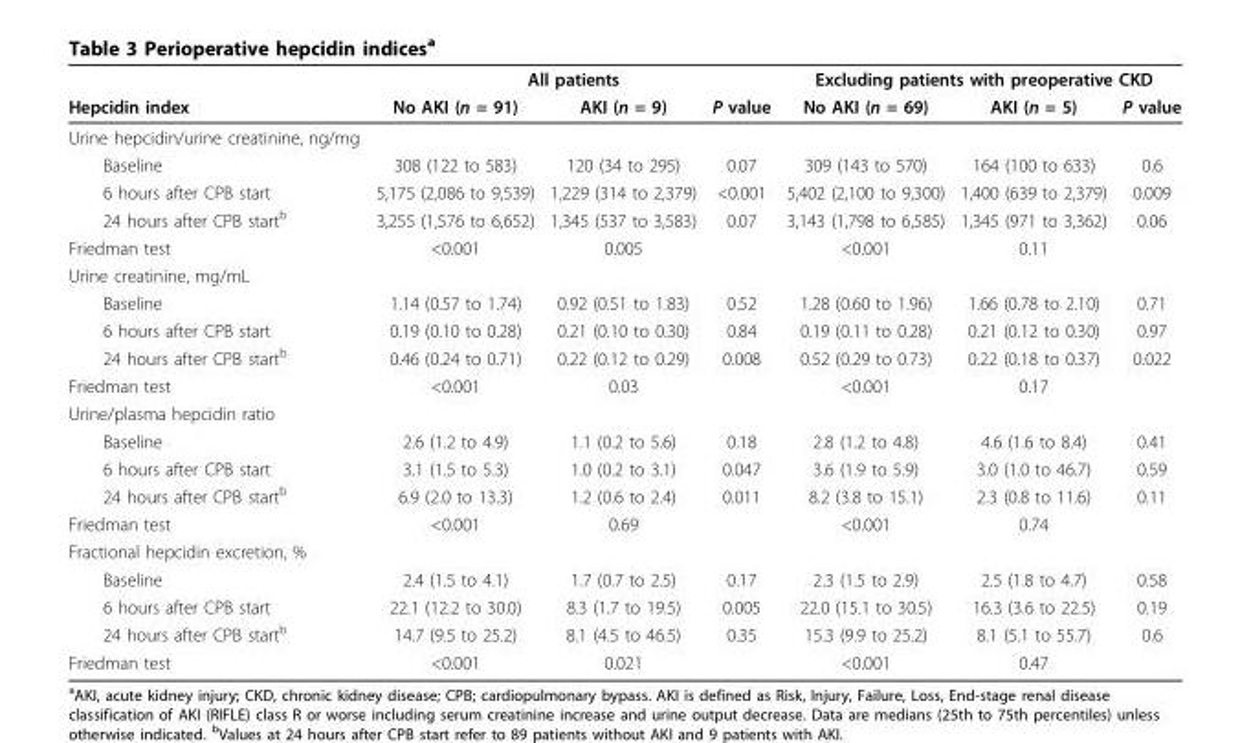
<table><thead><tr><td rowspan="2">Hepcidin index</td><td colspan="3">All patients</td><td colspan="3">Excluding patients with preoperative CKD</td></tr><tr><td>No AKI (n = 91)</td><td>AKI (n = 9)</td><td>P value</td><td>No AKI (n = 69)</td><td>AKI (n = 5)</td><td>P value</td></tr></thead><tbody><tr><td colspan="7">Urine hepcidin/urine creatinine, ng/mg</td></tr><tr><td>Baseline</td><td>308 (122 to 583)</td><td>120 (34 to 295)</td><td>0.07</td><td>309 (143 to 570)</td><td>164 (100 to 633)</td><td>0.6</td></tr><tr><td>6 hours after CPB start</td><td>5,175 (2,086 to 9,539)</td><td>1,229 (314 to 2,379)</td><td>&lt;0.001</td><td>5,402 (2,100 to 9,300)</td><td>1,400 (639 to 2,379)</td><td>0.009</td></tr><tr><td>24 hours after CPB start<sup>b</sup></td><td>3,255 (1,576 to 6,652)</td><td>1,345 (537 to 3,583)</td><td>0.07</td><td>3,143 (1,798 to 6,585)</td><td>1,345 (971 to 3,362)</td><td>0.06</td></tr><tr><td>Friedman test</td><td>&lt;0.001</td><td>0.005</td><td></td><td>&lt;0.001</td><td>0.11</td><td></td></tr><tr><td colspan="7">Urine creatinine, mg/mL</td></tr><tr><td>Baseline</td><td>1.14 (0.57 to 1.74)</td><td>0.92 (0.51 to 1.83)</td><td>0.52</td><td>1.28 (0.60 to 1.96)</td><td>1.66 (0.78 to 2.10)</td><td>0.71</td></tr><tr><td>6 hours after CPB start</td><td>0.19 (0.10 to 0.28)</td><td>0.21 (0.10 to 0.30)</td><td>0.84</td><td>0.19 (0.11 to 0.28)</td><td>0.21 (0.12 to 0.30)</td><td>0.97</td></tr><tr><td>24 hours after CPB start<sup>b</sup></td><td>0.46 (0.24 to 0.71)</td><td>0.22 (0.12 to 0.29)</td><td>0.008</td><td>0.52 (0.29 to 0.73)</td><td>0.22 (0.18 to 0.37)</td><td>0.022</td></tr><tr><td>Friedman test</td><td>&lt;0.001</td><td>0.03</td><td></td><td>&lt;0.001</td><td>0.17</td><td></td></tr><tr><td colspan="7">Urine/plasma hepcidin ratio</td></tr><tr><td>Baseline</td><td>2.6 (1.2 to 4.9)</td><td>1.1 (0.2 to 5.6)</td><td>0.18</td><td>2.8 (1.2 to 4.8)</td><td>4.6 (1.6 to 8.4)</td><td>0.41</td></tr><tr><td>6 hours after CPB start</td><td>3.1 (1.5 to 5.3)</td><td>1.0 (0.2 to 3.1)</td><td>0.047</td><td>3.6 (1.9 to 5.9)</td><td>3.0 (1.0 to 46.7)</td><td>0.59</td></tr><tr><td>24 hours after CPB start<sup>b</sup></td><td>6.9 (2.0 to 13.3)</td><td>1.2 (0.6 to 2.4)</td><td>0.011</td><td>8.2 (3.8 to 15.1)</td><td>2.3 (0.8 to 11.6)</td><td>0.11</td></tr><tr><td>Friedman test</td><td>&lt;0.001</td><td>0.69</td><td></td><td>&lt;0.001</td><td>0.74</td><td></td></tr><tr><td colspan="7">Fractional hepcidin excretion, %</td></tr><tr><td>Baseline</td><td>2.4 (1.5 to 4.1)</td><td>1.7 (0.7 to 2.5)</td><td>0.17</td><td>2.3 (1.5 to 2.9)</td><td>2.5 (1.8 to 4.7)</td><td>0.58</td></tr><tr><td>6 hours after CPB start</td><td>22.1 (12.2 to 30.0)</td><td>8.3 (1.7 to 19.5)</td><td>0.005</td><td>22.0 (15.1 to 30.5)</td><td>16.3 (3.6 to 22.5)</td><td>0.19</td></tr><tr><td>24 hours after CPB start<sup>b</sup></td><td>14.7 (9.5 to 25.2)</td><td>8.1 (4.5 to 46.5)</td><td>0.35</td><td>15.3 (9.9 to 25.2)</td><td>8.1 (5.1 to 55.7)</td><td>0.6</td></tr><tr><td>Friedman test</td><td>&lt;0.001</td><td>0.021</td><td></td><td>&lt;0.001</td><td>0.47</td><td></td></tr></tbody></table>